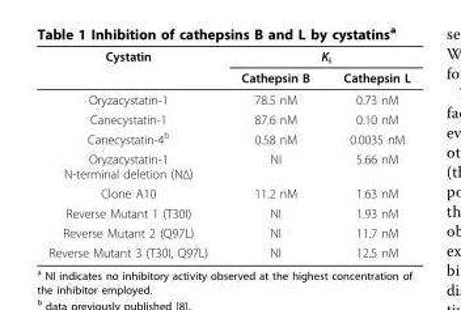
<table><thead><tr><td rowspan="2">Cystatin</td><td colspan="2">K<sub>i</sub></td></tr><tr><td>Cathepsin B</td><td>Cathepsin L</td></tr></thead><tbody><tr><td>Oryzacystatin-1</td><td>78.5 nM</td><td>0.73 nM</td></tr><tr><td>Canecystatin-1</td><td>87.6 nM</td><td>0.10 nM</td></tr><tr><td>Canecystatin-4<sup>b</sup></td><td>0.58 nM</td><td>0.0035 nM</td></tr><tr><td>Oryzacystatin-1 N-terminal deletion (NΔ)</td><td>NI</td><td>5.66 nM</td></tr><tr><td>Clone A10</td><td>11.2 nM</td><td>1.63 nM</td></tr><tr><td>Reverse Mutant 1 (T30I)</td><td>NI</td><td>1.93 nM</td></tr><tr><td>Reverse Mutant 2 (Q97L)</td><td>NI</td><td>11.7 nM</td></tr><tr><td>Reverse Mutant 3 (T30I, Q97L)</td><td>NI</td><td>12.5 nM</td></tr></tbody></table>